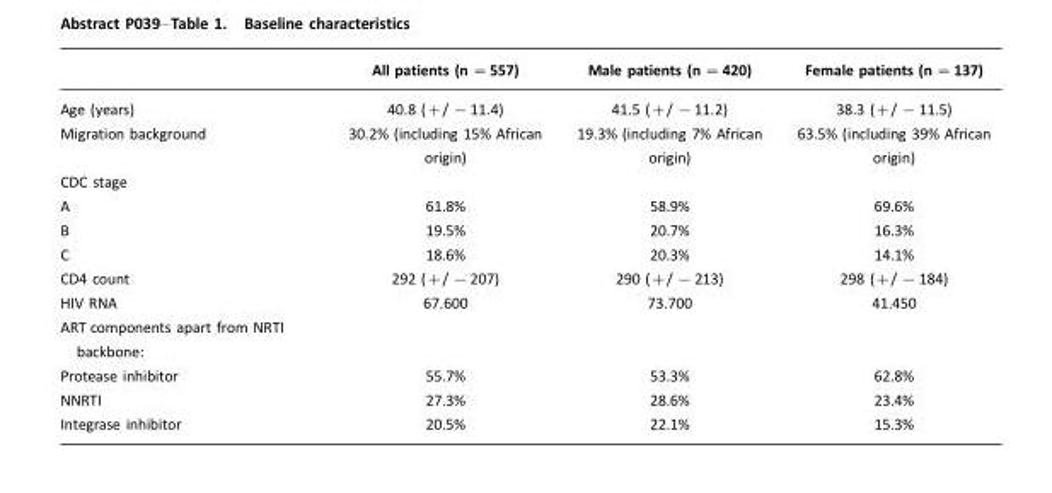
<table><thead><tr><td></td><td>All patients (n =557)</td><td>Male patients (n =420)</td><td>Female patients (n =137)</td></tr></thead><tbody><tr><td>Age (years)</td><td>40.8 (+/ −11.4)</td><td>41.5 (+/ −11.2)</td><td>38.3 (+/ −11.5)</td></tr><tr><td>Migration background</td><td>30.2% (including 15% African origin)</td><td>19.3% (including 7% African origin)</td><td>63.5% (including 39% African origin)</td></tr><tr><td colspan="4">CDC stage</td></tr><tr><td>A</td><td>61.8%</td><td>58.9%</td><td>69.6%</td></tr><tr><td>B</td><td>19.5%</td><td>20.7%</td><td>16.3%</td></tr><tr><td>C</td><td>18.6%</td><td>20.3%</td><td>14.1%</td></tr><tr><td>CD4 count</td><td>292 (+/ −207)</td><td>290 (+/ −213)</td><td>298 (+/ −184)</td></tr><tr><td>HIV RNA</td><td>67.600</td><td>73.700</td><td>41.450</td></tr><tr><td colspan="4">ART components apart from NRTI backbone:</td></tr><tr><td>Protease inhibitor</td><td>55.7%</td><td>53.3%</td><td>62.8%</td></tr><tr><td>NNRTI</td><td>27.3%</td><td>28.6%</td><td>23.4%</td></tr><tr><td>Integrase inhibitor</td><td>20.5%</td><td>22.1%</td><td>15.3%</td></tr></tbody></table>